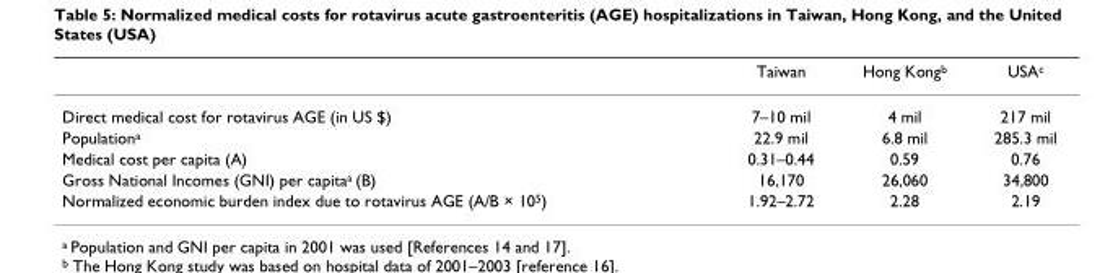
<table><thead><tr><td></td><td>Taiwan</td><td>Hong Kong<sup>b</sup></td><td>USA<sup>c</sup></td></tr></thead><tbody><tr><td>Direct medical cost for rotavirus AGE (in US $)</td><td>7–10 mil</td><td>4 mil</td><td>217 mil</td></tr><tr><td>Population<sup>a</sup></td><td>22.9 mil</td><td>6.8 mil</td><td>285.3 mil</td></tr><tr><td>Medical cost per capita (A)</td><td>0.31–0.44</td><td>0.59</td><td>0.76</td></tr><tr><td>Gross National Incomes (GNI) per capita<sup>a</sup> (B)</td><td>16,170</td><td>26,060</td><td>34,800</td></tr><tr><td>Normalized economic burden index due to rotavirus AGE (A/B × 10<sup>5</sup>)</td><td>1.92–2.72</td><td>2.28</td><td>2.19</td></tr></tbody></table>